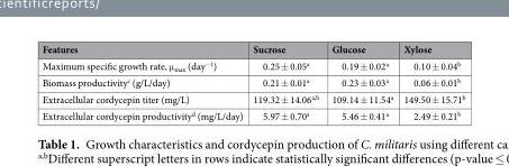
<table><thead><tr><td>Features</td><td>Sucrose</td><td>Glucose</td><td>Xylose</td></tr></thead><tbody><tr><td>Maximum specific growth rate, μ<sub>max</sub> (day<sup>−1</sup>)</td><td>0.25 ± 0.05<sup>a</sup></td><td>0.19 ± 0.02<sup>a</sup></td><td>0.10 ± 0.04<sup>b</sup></td></tr><tr><td>Biomass productivity<sup>c</sup> (g/L/day)</td><td>0.21 ± 0.01<sup>a</sup></td><td>0.23 ± 0.03<sup>a</sup></td><td>0.06 ± 0.01<sup>b</sup></td></tr><tr><td>Extracellular cordycepin titer (mg/L)</td><td>119.32 ± 14.06<sup>a,b</sup></td><td>109.14 ± 11.54<sup>a</sup></td><td>149.50 ± 15.71<sup>b</sup></td></tr><tr><td>Extracellular cordycepin productivity<sup>d</sup> (mg/L/day)</td><td>5.97 ± 0.70<sup>a</sup></td><td>5.46 ± 0.41<sup>a</sup></td><td>2.49 ± 0.21<sup>b</sup></td></tr></tbody></table>